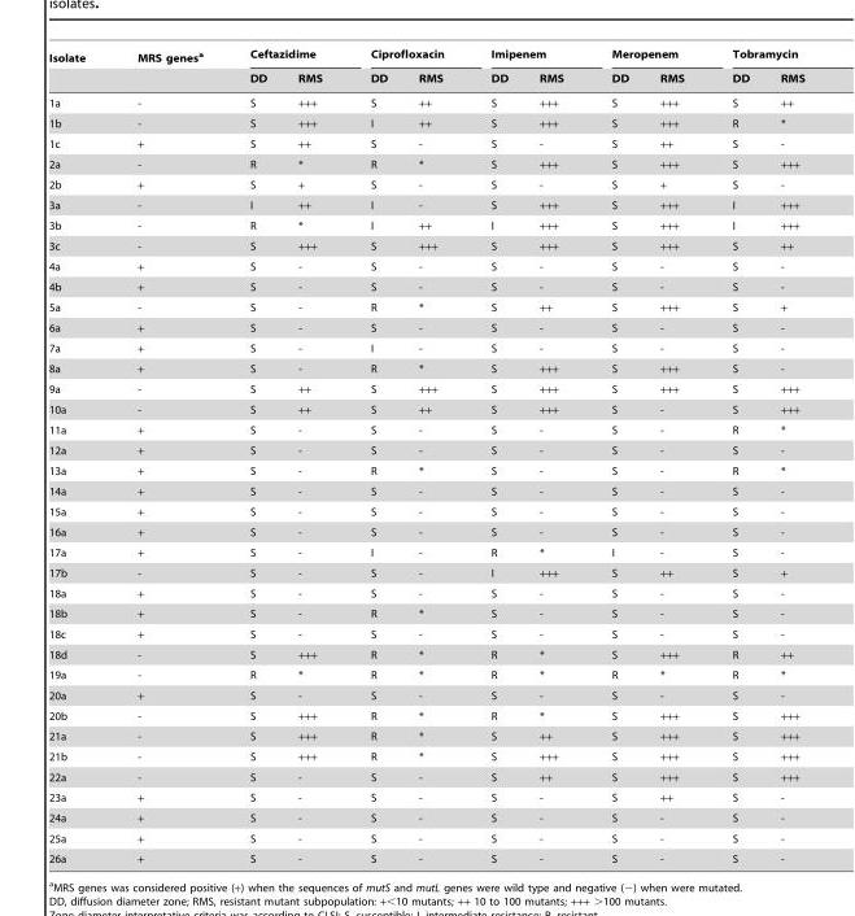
<table><thead><tr><td rowspan="2">Isolate</td><td rowspan="2">MRS genes<sup>a</sup></td><td colspan="2">Ceftazidime</td><td colspan="2">Ciprofloxacin</td><td colspan="2">Imipenem</td><td colspan="2">Meropenem</td><td colspan="2">Tobramycin</td></tr><tr><td>DD</td><td>RMS</td><td>DD</td><td>RMS</td><td>DD</td><td>RMS</td><td>DD</td><td>RMS</td><td>DD</td><td>RMS</td></tr></thead><tbody><tr><td>1a</td><td>-</td><td>S</td><td>+++</td><td>S</td><td>++</td><td>S</td><td>+++</td><td>S</td><td>+++</td><td>S</td><td>++</td></tr><tr><td>1b</td><td>-</td><td>S</td><td>+++</td><td>I</td><td>++</td><td>S</td><td>+++</td><td>S</td><td>+++</td><td>R</td><td>*</td></tr><tr><td>1c</td><td>+</td><td>S</td><td>++</td><td>S</td><td>-</td><td>S</td><td>-</td><td>S</td><td>++</td><td>S</td><td>-</td></tr><tr><td>2a</td><td>-</td><td>R</td><td>*</td><td>R</td><td>*</td><td>S</td><td>+++</td><td>S</td><td>+++</td><td>S</td><td>+++</td></tr><tr><td>2b</td><td>+</td><td>S</td><td>+</td><td>S</td><td>-</td><td>S</td><td>-</td><td>S</td><td>+</td><td>S</td><td>-</td></tr><tr><td>3a</td><td>-</td><td>I</td><td>++</td><td>I</td><td>-</td><td>S</td><td>+++</td><td>S</td><td>+++</td><td>I</td><td>+++</td></tr><tr><td>3b</td><td>-</td><td>R</td><td>*</td><td>I</td><td>++</td><td>I</td><td>+++</td><td>S</td><td>+++</td><td>I</td><td>+++</td></tr><tr><td>3c</td><td>-</td><td>S</td><td>+++</td><td>S</td><td>+++</td><td>S</td><td>+++</td><td>S</td><td>+++</td><td>S</td><td>++</td></tr><tr><td>4a</td><td>+</td><td>S</td><td>-</td><td>S</td><td>-</td><td>S</td><td>-</td><td>S</td><td>-</td><td>S</td><td>-</td></tr><tr><td>4b</td><td>+</td><td>S</td><td>-</td><td>S</td><td>-</td><td>S</td><td>-</td><td>S</td><td>-</td><td>S</td><td>-</td></tr><tr><td>5a</td><td>-</td><td>S</td><td>-</td><td>R</td><td>*</td><td>S</td><td>++</td><td>S</td><td>+++</td><td>S</td><td>+</td></tr><tr><td>6a</td><td>+</td><td>S</td><td>-</td><td>S</td><td>-</td><td>S</td><td>-</td><td>S</td><td>-</td><td>S</td><td>-</td></tr><tr><td>7a</td><td>+</td><td>S</td><td>-</td><td>I</td><td>-</td><td>S</td><td>-</td><td>S</td><td>-</td><td>S</td><td>-</td></tr><tr><td>8a</td><td>+</td><td>S</td><td>-</td><td>R</td><td>*</td><td>S</td><td>+++</td><td>S</td><td>+++</td><td>S</td><td>-</td></tr><tr><td>9a</td><td>-</td><td>S</td><td>++</td><td>S</td><td>+++</td><td>S</td><td>+++</td><td>S</td><td>+++</td><td>S</td><td>+++</td></tr><tr><td>10a</td><td>-</td><td>S</td><td>++</td><td>S</td><td>++</td><td>S</td><td>+++</td><td>S</td><td>-</td><td>S</td><td>+++</td></tr><tr><td>11a</td><td>+</td><td>S</td><td>-</td><td>S</td><td>-</td><td>S</td><td>-</td><td>S</td><td>-</td><td>R</td><td>*</td></tr><tr><td>12a</td><td>+</td><td>S</td><td>-</td><td>S</td><td>-</td><td>S</td><td>-</td><td>S</td><td>-</td><td>S</td><td>-</td></tr><tr><td>13a</td><td>+</td><td>S</td><td>-</td><td>R</td><td>*</td><td>S</td><td>-</td><td>S</td><td>-</td><td>R</td><td>*</td></tr><tr><td>14a</td><td>+</td><td>S</td><td>-</td><td>S</td><td>-</td><td>S</td><td>-</td><td>S</td><td>-</td><td>S</td><td>-</td></tr><tr><td>15a</td><td>+</td><td>S</td><td>-</td><td>S</td><td>-</td><td>S</td><td>-</td><td>S</td><td>-</td><td>S</td><td>-</td></tr><tr><td>16a</td><td>+</td><td>S</td><td>-</td><td>S</td><td>-</td><td>S</td><td>-</td><td>S</td><td>-</td><td>S</td><td>-</td></tr><tr><td>17a</td><td>+</td><td>S</td><td>-</td><td>I</td><td>-</td><td>R</td><td>*</td><td>I</td><td>-</td><td>S</td><td>-</td></tr><tr><td>17b</td><td>-</td><td>S</td><td>-</td><td>S</td><td>-</td><td>I</td><td>+++</td><td>S</td><td>++</td><td>S</td><td>+</td></tr><tr><td>18a</td><td>+</td><td>S</td><td>-</td><td>S</td><td>-</td><td>S</td><td>-</td><td>S</td><td>-</td><td>S</td><td>-</td></tr><tr><td>18b</td><td>+</td><td>S</td><td>-</td><td>R</td><td>*</td><td>S</td><td>-</td><td>S</td><td>-</td><td>S</td><td>-</td></tr><tr><td>18c</td><td>+</td><td>S</td><td>-</td><td>S</td><td>-</td><td>S</td><td>-</td><td>S</td><td>-</td><td>S</td><td>-</td></tr><tr><td>18d</td><td>-</td><td>S</td><td>+++</td><td>R</td><td>*</td><td>R</td><td>*</td><td>S</td><td>+++</td><td>R</td><td>++</td></tr><tr><td>19a</td><td>-</td><td>R</td><td>*</td><td>R</td><td>*</td><td>R</td><td>*</td><td>R</td><td>*</td><td>R</td><td>*</td></tr><tr><td>20a</td><td>+</td><td>S</td><td>-</td><td>S</td><td>-</td><td>S</td><td>-</td><td>S</td><td>-</td><td>S</td><td>-</td></tr><tr><td>20b</td><td>-</td><td>S</td><td>+++</td><td>R</td><td>*</td><td>R</td><td>*</td><td>S</td><td>+++</td><td>S</td><td>+++</td></tr><tr><td>21a</td><td>-</td><td>S</td><td>+++</td><td>R</td><td>*</td><td>S</td><td>++</td><td>S</td><td>+++</td><td>S</td><td>+++</td></tr><tr><td>21b</td><td>-</td><td>S</td><td>+++</td><td>R</td><td>*</td><td>S</td><td>+++</td><td>S</td><td>+++</td><td>S</td><td>+++</td></tr><tr><td>22a</td><td>-</td><td>S</td><td>-</td><td>S</td><td>-</td><td>S</td><td>++</td><td>S</td><td>+++</td><td>S</td><td>+++</td></tr><tr><td>23a</td><td>+</td><td>S</td><td>-</td><td>S</td><td>-</td><td>S</td><td>-</td><td>S</td><td>++</td><td>S</td><td>-</td></tr><tr><td>24a</td><td>+</td><td>S</td><td>-</td><td>S</td><td>-</td><td>S</td><td>-</td><td>S</td><td>-</td><td>S</td><td>-</td></tr><tr><td>25a</td><td>+</td><td>S</td><td>-</td><td>S</td><td>-</td><td>S</td><td>-</td><td>S</td><td>-</td><td>S</td><td>-</td></tr><tr><td>26a</td><td>+</td><td>S</td><td>-</td><td>S</td><td>-</td><td>S</td><td>-</td><td>S</td><td>-</td><td>S</td><td>-</td></tr></tbody></table>